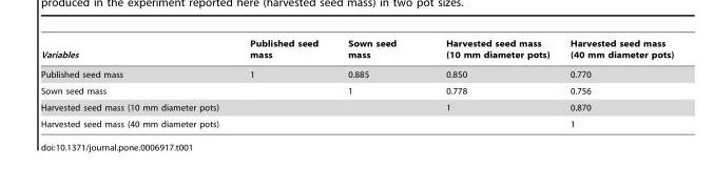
<table><thead><tr><td>Variables</td><td>Published seed mass</td><td>Sown seed mass</td><td>Harvested seed mass (10 mm diameter pots)</td><td>Harvested seed mass (40 mm diameter pots)</td></tr></thead><tbody><tr><td>Published seed mass</td><td>1</td><td>0.885</td><td>0.850</td><td>0.770</td></tr><tr><td>Sown seed mass</td><td></td><td>1</td><td>0.778</td><td>0.756</td></tr><tr><td>Harvested seed mass (10 mm diameter pots)</td><td></td><td></td><td>1</td><td>0.870</td></tr><tr><td>Harvested seed mass (40 mm diameter pots)</td><td></td><td></td><td></td><td>1</td></tr></tbody></table>